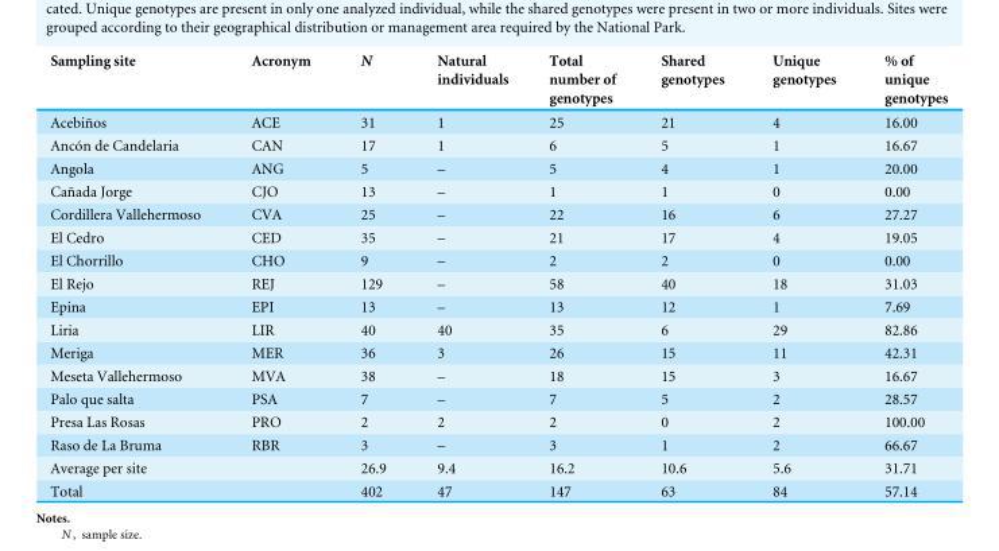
<table><thead><tr><td>Sampling site</td><td>Acronym</td><td>N</td><td>Natural individuals</td><td>Total number of genotypes</td><td>Shared genotypes</td><td>Unique genotypes</td><td>% of unique genotypes</td></tr></thead><tbody><tr><td>Acebiños</td><td>ACE</td><td>31</td><td>1</td><td>25</td><td>21</td><td>4</td><td>16.00</td></tr><tr><td>Ancón de Candelaria</td><td>CAN</td><td>17</td><td>1</td><td>6</td><td>5</td><td>1</td><td>16.67</td></tr><tr><td>Angola</td><td>ANG</td><td>5</td><td>–</td><td>5</td><td>4</td><td>1</td><td>20.00</td></tr><tr><td>Cañada Jorge</td><td>CJO</td><td>13</td><td>–</td><td>1</td><td>1</td><td>0</td><td>0.00</td></tr><tr><td>Cordillera Vallehermoso</td><td>CVA</td><td>25</td><td>–</td><td>22</td><td>16</td><td>6</td><td>27.27</td></tr><tr><td>El Cedro</td><td>CED</td><td>35</td><td>–</td><td>21</td><td>17</td><td>4</td><td>19.05</td></tr><tr><td>El Chorrillo</td><td>CHO</td><td>9</td><td>–</td><td>2</td><td>2</td><td>0</td><td>0.00</td></tr><tr><td>El Rejo</td><td>REJ</td><td>129</td><td>–</td><td>58</td><td>40</td><td>18</td><td>31.03</td></tr><tr><td>Epina</td><td>EPI</td><td>13</td><td>–</td><td>13</td><td>12</td><td>1</td><td>7.69</td></tr><tr><td>Liria</td><td>LIR</td><td>40</td><td>40</td><td>35</td><td>6</td><td>29</td><td>82.86</td></tr><tr><td>Meriga</td><td>MER</td><td>36</td><td>3</td><td>26</td><td>15</td><td>11</td><td>42.31</td></tr><tr><td>Meseta Vallehermoso</td><td>MVA</td><td>38</td><td>–</td><td>18</td><td>15</td><td>3</td><td>16.67</td></tr><tr><td>Palo que salta</td><td>PSA</td><td>7</td><td>–</td><td>7</td><td>5</td><td>2</td><td>28.57</td></tr><tr><td>Presa Las Rosas</td><td>PRO</td><td>2</td><td>2</td><td>2</td><td>0</td><td>2</td><td>100.00</td></tr><tr><td>Raso de La Bruma</td><td>RBR</td><td>3</td><td>–</td><td>3</td><td>1</td><td>2</td><td>66.67</td></tr><tr><td>Average per site</td><td></td><td>26.9</td><td>9.4</td><td>16.2</td><td>10.6</td><td>5.6</td><td>31.71</td></tr><tr><td>Total</td><td></td><td>402</td><td>47</td><td>147</td><td>63</td><td>84</td><td>57.14</td></tr></tbody></table>